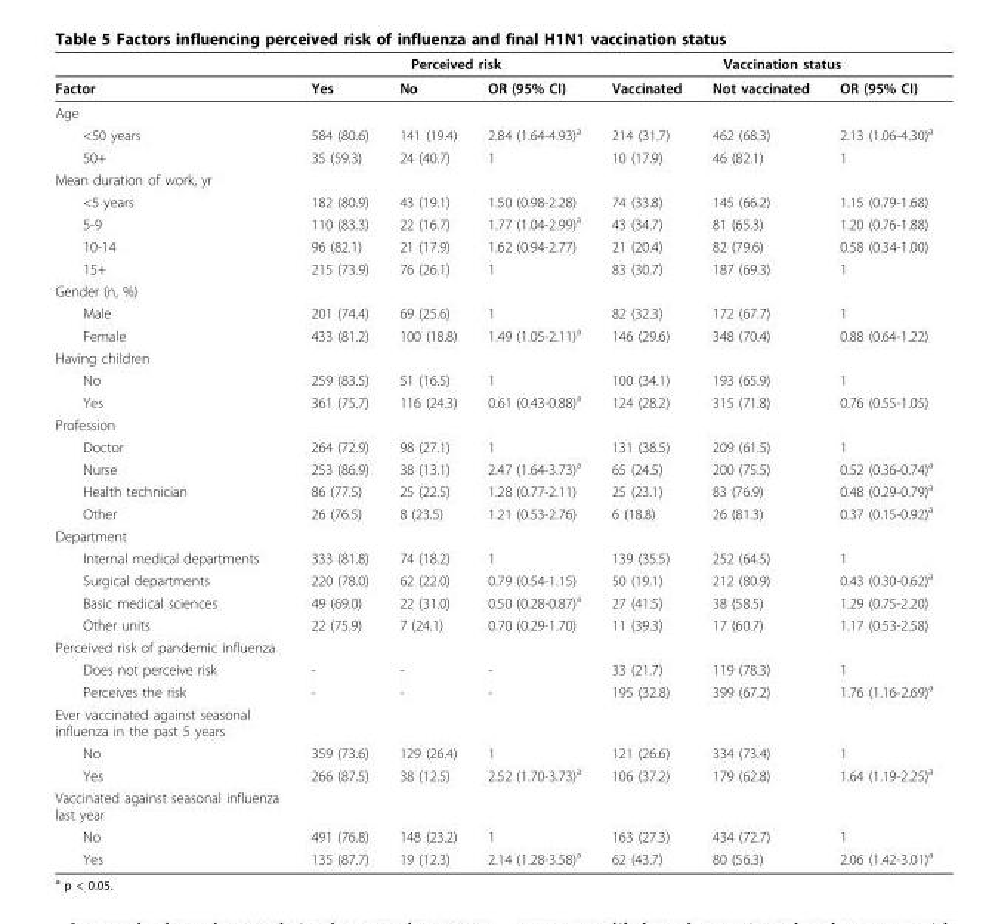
<table><thead><tr><td rowspan="2">Factor</td><td colspan="3">Perceived risk</td><td colspan="3">Vaccination status</td></tr><tr><td>Yes</td><td>No</td><td>OR (95% CI)</td><td>Vaccinated</td><td>Not vaccinated</td><td>OR (95% CI)</td></tr></thead><tbody><tr><td colspan="7">Age</td></tr><tr><td>&lt;50 years</td><td>584 (80.6)</td><td>141 (19.4)</td><td>2.84 (1.64-4.93)<sup>a</sup></td><td>214 (31.7)</td><td>462 (68.3)</td><td>2.13 (1.06-4.30)<sup>a</sup></td></tr><tr><td>50+</td><td>35 (59.3)</td><td>24 (40.7)</td><td>1</td><td>10 (17.9)</td><td>46 (82.1)</td><td>1</td></tr><tr><td colspan="7">Mean duration of work, yr</td></tr><tr><td>&lt;5 years</td><td>182 (80.9)</td><td>43 (19.1)</td><td>1.50 (0.98-2.28)</td><td>74 (33.8)</td><td>145 (66.2)</td><td>1.15 (0.79-1.68)</td></tr><tr><td>5-9</td><td>110 (83.3)</td><td>22 (16.7)</td><td>1.77 (1.04-2.99)<sup>a</sup></td><td>43 (34.7)</td><td>81 (65.3)</td><td>1.20 (0.76-1.88)</td></tr><tr><td>10-14</td><td>96 (82.1)</td><td>21 (17.9)</td><td>1.62 (0.94-2.77)</td><td>21 (20.4)</td><td>82 (79.6)</td><td>0.58 (0.34-1.00)</td></tr><tr><td>15+</td><td>215 (73.9)</td><td>76 (26.1)</td><td>1</td><td>83 (30.7)</td><td>187 (69.3)</td><td>1</td></tr><tr><td colspan="7">Gender (n, %)</td></tr><tr><td>Male</td><td>201 (74.4)</td><td>69 (25.6)</td><td>1</td><td>82 (32.3)</td><td>172 (67.7)</td><td>1</td></tr><tr><td>Female</td><td>433 (81.2)</td><td>100 (18.8)</td><td>1.49 (1.05-2.11)<sup>a</sup></td><td>146 (29.6)</td><td>348 (70.4)</td><td>0.88 (0.64-1.22)</td></tr><tr><td colspan="7">Having children</td></tr><tr><td>No</td><td>259 (83.5)</td><td>51 (16.5)</td><td>1</td><td>100 (34.1)</td><td>193 (65.9)</td><td>1</td></tr><tr><td>Yes</td><td>361 (75.7)</td><td>116 (24.3)</td><td>0.61 (0.43-0.88)<sup>a</sup></td><td>124 (28.2)</td><td>315 (71.8)</td><td>0.76 (0.55-1.05)</td></tr><tr><td colspan="7">Profession</td></tr><tr><td>Doctor</td><td>264 (72.9)</td><td>98 (27.1)</td><td>1</td><td>131 (38.5)</td><td>209 (61.5)</td><td>1</td></tr><tr><td>Nurse</td><td>253 (86.9)</td><td>38 (13.1)</td><td>2.47 (1.64-3.73)<sup>a</sup></td><td>65 (24.5)</td><td>200 (75.5)</td><td>0.52 (0.36-0.74)<sup>a</sup></td></tr><tr><td>Health technician</td><td>86 (77.5)</td><td>25 (22.5)</td><td>1.28 (0.77-2.11)</td><td>25 (23.1)</td><td>83 (76.9)</td><td>0.48 (0.29-0.79)<sup>a</sup></td></tr><tr><td>Other</td><td>26 (76.5)</td><td>8 (23.5)</td><td>1.21 (0.53-2.76)</td><td>6 (18.8)</td><td>26 (81.3)</td><td>0.37 (0.15-0.92)<sup>a</sup></td></tr><tr><td colspan="7">Department</td></tr><tr><td>Internal medical departments</td><td>333 (81.8)</td><td>74 (18.2)</td><td>1</td><td>139 (35.5)</td><td>252 (64.5)</td><td>1</td></tr><tr><td>Surgical departments</td><td>220 (78.0)</td><td>62 (22.0)</td><td>0.79 (0.54-1.15)</td><td>50 (19.1)</td><td>212 (80.9)</td><td>0.43 (0.30-0.62)<sup>a</sup></td></tr><tr><td>Basic medical sciences</td><td>49 (69.0)</td><td>22 (31.0)</td><td>0.50 (0.28-0.87)<sup>a</sup></td><td>27 (41.5)</td><td>38 (58.5)</td><td>1.29 (0.75-2.20)</td></tr><tr><td>Other units</td><td>22 (75.9)</td><td>7 (24.1)</td><td>0.70 (0.29-1.70)</td><td>11 (39.3)</td><td>17 (60.7)</td><td>1.17 (0.53-2.58)</td></tr><tr><td colspan="7">Perceived risk of pandemic influenza</td></tr><tr><td>Does not perceive risk</td><td>-</td><td>-</td><td>-</td><td>33 (21.7)</td><td>119 (78.3)</td><td>1</td></tr><tr><td>Perceives the risk</td><td>-</td><td>-</td><td>-</td><td>195 (32.8)</td><td>399 (67.2)</td><td>1.76 (1.16-2.69)<sup>a</sup></td></tr><tr><td colspan="7">Ever vaccinated against seasonal influenza in the past 5 years</td></tr><tr><td>No</td><td>359 (73.6)</td><td>129 (26.4)</td><td>1</td><td>121 (26.6)</td><td>334 (73.4)</td><td>1</td></tr><tr><td>Yes</td><td>266 (87.5)</td><td>38 (12.5)</td><td>2.52 (1.70-3.73)<sup>a</sup></td><td>106 (37.2)</td><td>179 (62.8)</td><td>1.64 (1.19-2.25)<sup>a</sup></td></tr><tr><td colspan="7">Vaccinated against seasonal influenza last year</td></tr><tr><td>No</td><td>491 (76.8)</td><td>148 (23.2)</td><td>1</td><td>163 (27.3)</td><td>434 (72.7)</td><td>1</td></tr><tr><td>Yes</td><td>135 (87.7)</td><td>19 (12.3)</td><td>2.14 (1.28-3.58)<sup>a</sup></td><td>62 (43.7)</td><td>80 (56.3)</td><td>2.06 (1.42-3.01)<sup>a</sup></td></tr></tbody></table>